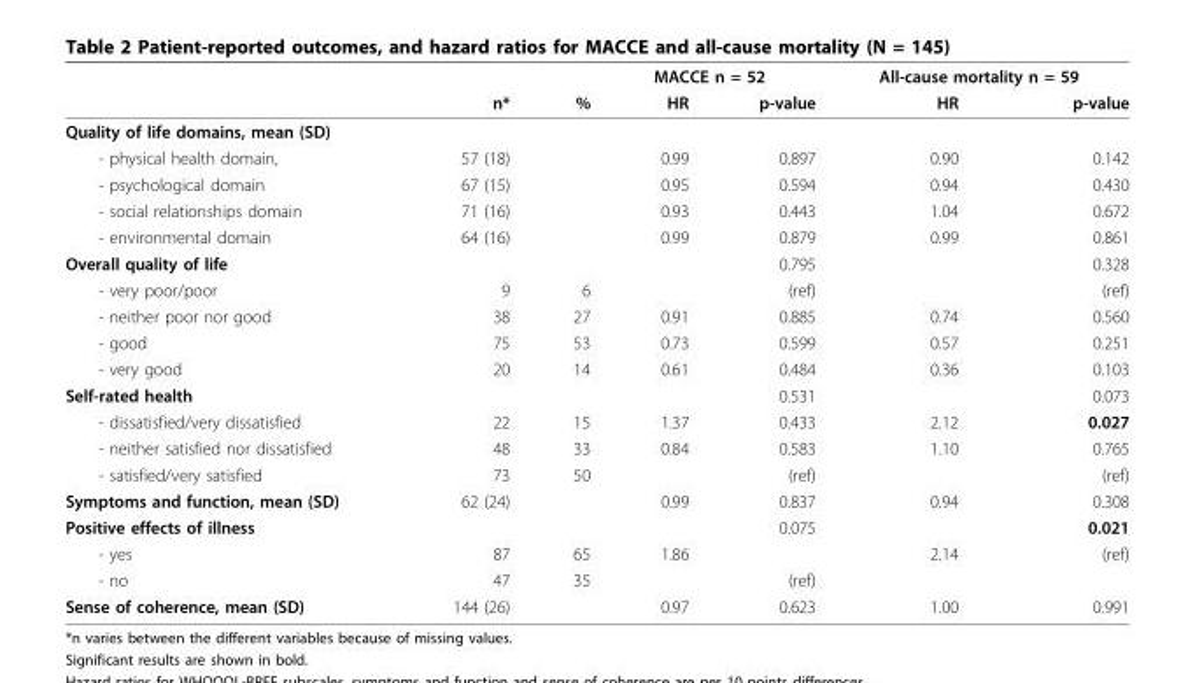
<table><thead><tr><td rowspan="2"></td><td rowspan="2">n*</td><td rowspan="2">%</td><td colspan="2">MACCE n = 52</td><td colspan="2">All-cause mortality n = 59</td></tr><tr><td>HR</td><td>p-value</td><td>HR</td><td>p-value</td></tr></thead><tbody><tr><td colspan="7">Quality of life domains, mean (SD)</td></tr><tr><td>- physical health domain,</td><td>57 (18)</td><td></td><td>0.99</td><td>0.897</td><td>0.90</td><td>0.142</td></tr><tr><td>- psychological domain</td><td>67 (15)</td><td></td><td>0.95</td><td>0.594</td><td>0.94</td><td>0.430</td></tr><tr><td>- social relationships domain</td><td>71 (16)</td><td></td><td>0.93</td><td>0.443</td><td>1.04</td><td>0.672</td></tr><tr><td>- environmental domain</td><td>64 (16)</td><td></td><td>0.99</td><td>0.879</td><td>0.99</td><td>0.861</td></tr><tr><td>Overall quality of life</td><td></td><td></td><td></td><td>0.795</td><td></td><td>0.328</td></tr><tr><td>- very poor/poor</td><td>9</td><td>6</td><td></td><td>(ref)</td><td></td><td>(ref)</td></tr><tr><td>- neither poor nor good</td><td>38</td><td>27</td><td>0.91</td><td>0.885</td><td>0.74</td><td>0.560</td></tr><tr><td>- good</td><td>75</td><td>53</td><td>0.73</td><td>0.599</td><td>0.57</td><td>0.251</td></tr><tr><td>- very good</td><td>20</td><td>14</td><td>0.61</td><td>0.484</td><td>0.36</td><td>0.103</td></tr><tr><td>Self-rated health</td><td></td><td></td><td></td><td>0.531</td><td></td><td>0.073</td></tr><tr><td>- dissatisfied/very dissatisfied</td><td>22</td><td>15</td><td>1.37</td><td>0.433</td><td>2.12</td><td>0.027</td></tr><tr><td>- neither satisfied nor dissatisfied</td><td>48</td><td>33</td><td>0.84</td><td>0.583</td><td>1.10</td><td>0.765</td></tr><tr><td>- satisfied/very satisfied</td><td>73</td><td>50</td><td></td><td>(ref)</td><td></td><td>(ref)</td></tr><tr><td>Symptoms and function, mean (SD)</td><td>62 (24)</td><td></td><td>0.99</td><td>0.837</td><td>0.94</td><td>0.308</td></tr><tr><td>Positive effects of illness</td><td></td><td></td><td></td><td>0.075</td><td></td><td>0.021</td></tr><tr><td>- yes</td><td>87</td><td>65</td><td>1.86</td><td></td><td>2.14</td><td>(ref)</td></tr><tr><td>- no</td><td>47</td><td>35</td><td></td><td>(ref)</td><td></td><td></td></tr><tr><td>Sense of coherence, mean (SD)</td><td>144 (26)</td><td></td><td>0.97</td><td>0.623</td><td>1.00</td><td>0.991</td></tr></tbody></table>